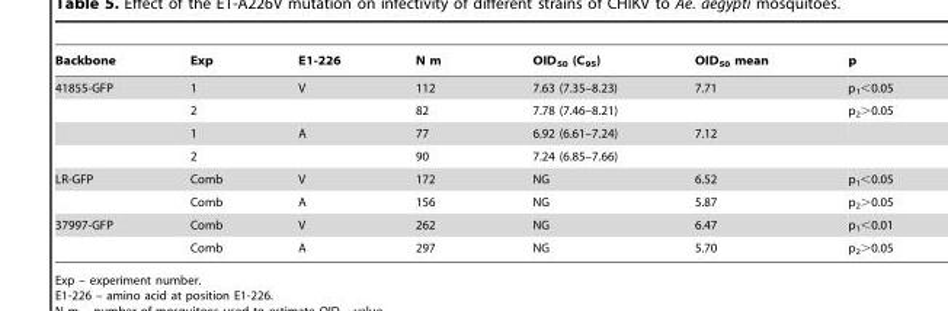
<table><thead><tr><td>Backbone</td><td>Exp</td><td>E1-226</td><td>N m</td><td>OID<sub>50</sub> (C<sub>95</sub>)</td><td>OID<sub>50</sub> mean</td><td>p</td></tr></thead><tbody><tr><td rowspan="4">41855-GFP</td><td>1</td><td>V</td><td>112</td><td>7.63 (7.35–8.23)</td><td>7.71</td><td>p<sub>1</sub>&lt;0.05</td></tr><tr><td>2</td><td></td><td>82</td><td>7.78 (7.46–8.21)</td><td></td><td>p<sub>2</sub>&gt;0.05</td></tr><tr><td>1</td><td>A</td><td>77</td><td>6.92 (6.61–7.24)</td><td>7.12</td><td></td></tr><tr><td>2</td><td></td><td>90</td><td>7.24 (6.85–7.66)</td><td></td><td></td></tr><tr><td rowspan="2">LR-GFP</td><td>Comb</td><td>V</td><td>172</td><td>NG</td><td>6.52</td><td>p<sub>1</sub>&lt;0.05</td></tr><tr><td>Comb</td><td>A</td><td>156</td><td>NG</td><td>5.87</td><td>p<sub>2</sub>&gt;0.05</td></tr><tr><td rowspan="2">37997-GFP</td><td>Comb</td><td>V</td><td>262</td><td>NG</td><td>6.47</td><td>p<sub>1</sub>&lt;0.01</td></tr><tr><td>Comb</td><td>A</td><td>297</td><td>NG</td><td>5.70</td><td>p<sub>2</sub>&gt;0.05</td></tr></tbody></table>